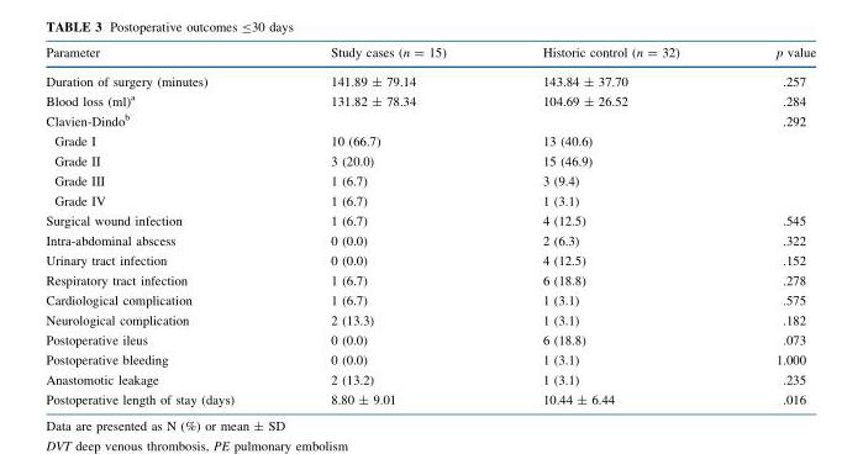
<table><thead><tr><td>Parameter</td><td>Study cases (n = 15)</td><td>Historic control (n = 32)</td><td>p value</td></tr></thead><tbody><tr><td>Duration of surgery (minutes)</td><td>141.89 ± 79.14</td><td>143.84 ± 37.70</td><td>.257</td></tr><tr><td>Blood loss (ml)<sup>a</sup></td><td>131.82 ± 78.34</td><td>104.69 ± 26.52</td><td>.284</td></tr><tr><td>Clavien-Dindo<sup>b</sup></td><td></td><td></td><td>.292</td></tr><tr><td>Grade I</td><td>10 (66.7)</td><td>13 (40.6)</td><td></td></tr><tr><td>Grade II</td><td>3 (20.0)</td><td>15 (46.9)</td><td></td></tr><tr><td>Grade III</td><td>1 (6.7)</td><td>3 (9.4)</td><td></td></tr><tr><td>Grade IV</td><td>1 (6.7)</td><td>1 (3.1)</td><td></td></tr><tr><td>Surgical wound infection</td><td>1 (6.7)</td><td>4 (12.5)</td><td>.545</td></tr><tr><td>Intra-abdominal abscess</td><td>0 (0.0)</td><td>2 (6.3)</td><td>.322</td></tr><tr><td>Urinary tract infection</td><td>0 (0.0)</td><td>4 (12.5)</td><td>.152</td></tr><tr><td>Respiratory tract infection</td><td>1 (6.7)</td><td>6 (18.8)</td><td>.278</td></tr><tr><td>Cardiological complication</td><td>1 (6.7)</td><td>1 (3.1)</td><td>.575</td></tr><tr><td>Neurological complication</td><td>2 (13.3)</td><td>1 (3.1)</td><td>.182</td></tr><tr><td>Postoperative ileus</td><td>0 (0.0)</td><td>6 (18.8)</td><td>.073</td></tr><tr><td>Postoperative bleeding</td><td>0 (0.0)</td><td>1 (3.1)</td><td>1.000</td></tr><tr><td>Anastomotic leakage</td><td>2 (13.2)</td><td>1 (3.1)</td><td>.235</td></tr><tr><td>Postoperative length of stay (days)</td><td>8.80 ± 9.01</td><td>10.44 ± 6.44</td><td>.016</td></tr></tbody></table>